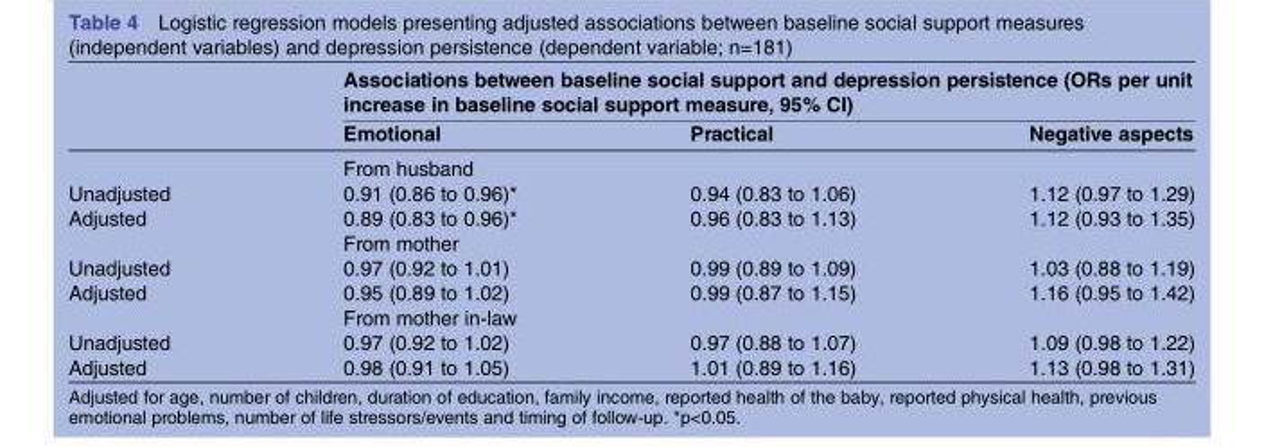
<table><thead><tr><td rowspan="2"></td><td colspan="3">Associations between baseline social support and depression persistence (ORs per unit increase in baseline social support measure, 95% CI)</td></tr><tr><td>Emotional</td><td>Practical</td><td>Negative aspects</td></tr></thead><tbody><tr><td></td><td colspan="3">From husband</td></tr><tr><td>Unadjusted</td><td>0.91 (0.86 to 0.96)*</td><td>0.94 (0.83 to 1.06)</td><td>1.12 (0.97 to 1.29)</td></tr><tr><td rowspan="2">Adjusted</td><td>0.89 (0.83 to 0.96)*</td><td>0.96 (0.83 to 1.13)</td><td>1.12 (0.93 to 1.35)</td></tr><tr><td colspan="3">From mother</td></tr><tr><td>Unadjusted</td><td>0.97 (0.92 to 1.01)</td><td>0.99 (0.89 to 1.09)</td><td>1.03 (0.88 to 1.19)</td></tr><tr><td rowspan="2">Adjusted</td><td>0.95 (0.89 to 1.02)</td><td>0.99 (0.87 to 1.15)</td><td>1.16 (0.95 to 1.42)</td></tr><tr><td colspan="3">From mother in-law</td></tr><tr><td>Unadjusted</td><td>0.97 (0.92 to 1.02)</td><td>0.97 (0.88 to 1.07)</td><td>1.09 (0.98 to 1.22)</td></tr><tr><td>Adjusted</td><td>0.98 (0.91 to 1.05)</td><td>1.01 (0.89 to 1.16)</td><td>1.13 (0.98 to 1.31)</td></tr></tbody></table>